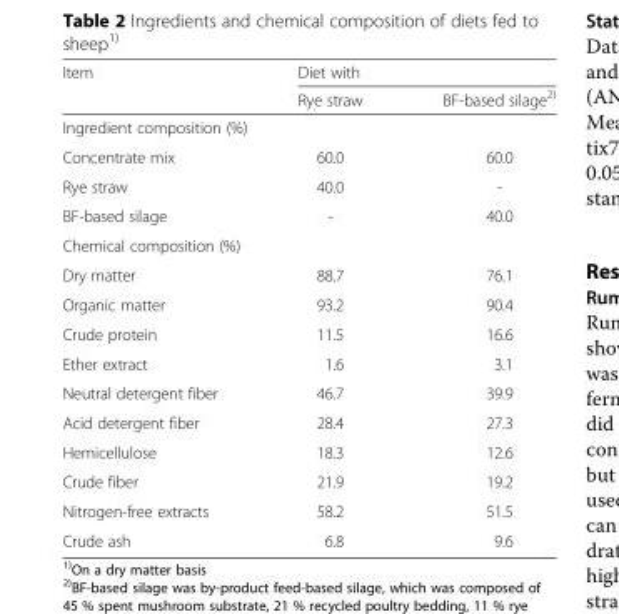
<table><thead><tr><td rowspan="2">Item</td><td colspan="2">Diet with</td></tr><tr><td>Rye straw</td><td>BF-based silage<sup>2)</sup></td></tr></thead><tbody><tr><td colspan="3">Ingredient composition (%)</td></tr><tr><td>Concentrate mix</td><td>60.0</td><td>60.0</td></tr><tr><td>Rye straw</td><td>40.0</td><td>-</td></tr><tr><td>BF-based silage</td><td>-</td><td>40.0</td></tr><tr><td colspan="3">Chemical composition (%)</td></tr><tr><td>Dry matter</td><td>88.7</td><td>76.1</td></tr><tr><td>Organic matter</td><td>93.2</td><td>90.4</td></tr><tr><td>Crude protein</td><td>11.5</td><td>16.6</td></tr><tr><td>Ether extract</td><td>1.6</td><td>3.1</td></tr><tr><td>Neutral detergent fiber</td><td>46.7</td><td>39.9</td></tr><tr><td>Acid detergent fiber</td><td>28.4</td><td>27.3</td></tr><tr><td>Hemicellulose</td><td>18.3</td><td>12.6</td></tr><tr><td>Crude fiber</td><td>21.9</td><td>19.2</td></tr><tr><td>Nitrogen-free extracts</td><td>58.2</td><td>51.5</td></tr><tr><td>Crude ash</td><td>6.8</td><td>9.6</td></tr></tbody></table>